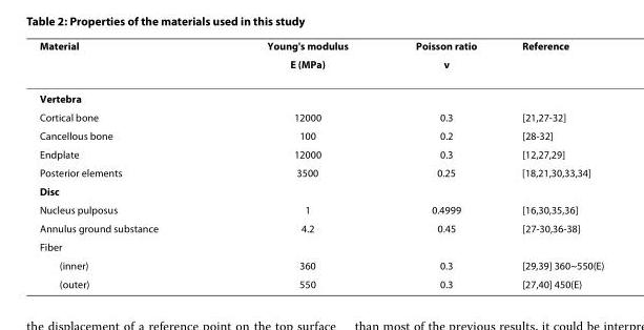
<table><thead><tr><td rowspan="2">Material</td><td rowspan="2">Young&#x27;s modulus E (MPa)</td><td rowspan="2">Poisson ratio ν</td><td rowspan="2">Reference</td></tr><tr></tr></thead><tbody><tr><td colspan="4">Vertebra</td></tr><tr><td>Cortical bone</td><td>12000</td><td>0.3</td><td>[21,27-32]</td></tr><tr><td>Cancellous bone</td><td>100</td><td>0.2</td><td>[28-32]</td></tr><tr><td>Endplate</td><td>12000</td><td>0.3</td><td>[12,27,29]</td></tr><tr><td>Posterior elements</td><td>3500</td><td>0.25</td><td>[18,21,30,33,34]</td></tr><tr><td colspan="4">Disc</td></tr><tr><td>Nucleus pulposus</td><td>1</td><td>0.4999</td><td>[16,30,35,36]</td></tr><tr><td>Annulus ground substance</td><td>4.2</td><td>0.45</td><td>[27-30,36-38]</td></tr><tr><td colspan="4">Fiber</td></tr><tr><td>(inner)</td><td>360</td><td>0.3</td><td>[29,39] 360~550(E)</td></tr><tr><td>(outer)</td><td>550</td><td>0.3</td><td>[27,40] 450(E)</td></tr></tbody></table>